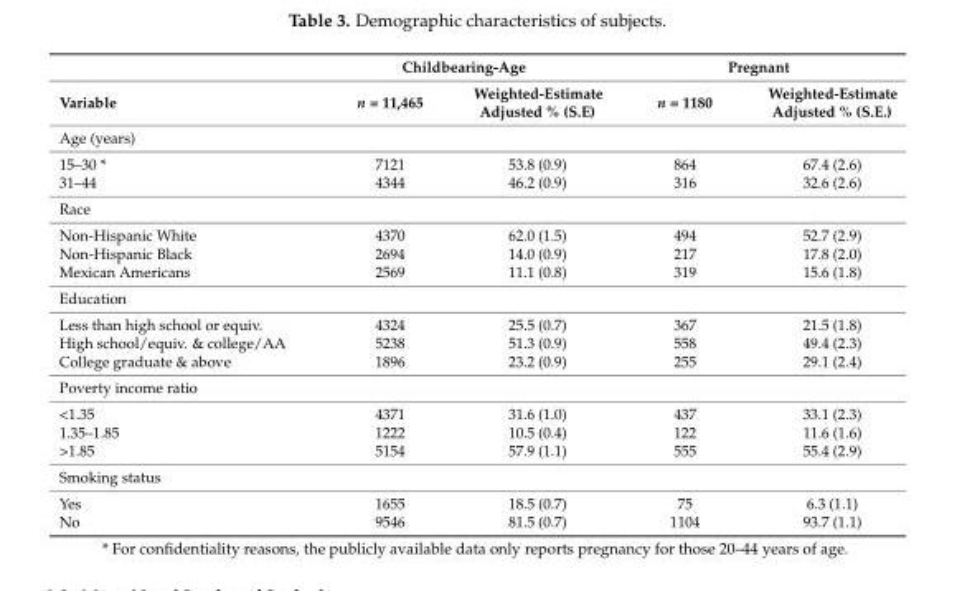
<table><thead><tr><td rowspan="2">Variable</td><td colspan="2">Childbearing-Age</td><td colspan="2">Pregnant</td></tr><tr><td>n = 11,465</td><td>Weighted-Estimate Adjusted % (S.E)</td><td>n = 1180</td><td>Weighted-Estimate Adjusted % (S.E.)</td></tr></thead><tbody><tr><td colspan="5">Age (years)</td></tr><tr><td>15–30 *</td><td>7121</td><td>53.8 (0.9)</td><td>864</td><td>67.4 (2.6)</td></tr><tr><td>31–44</td><td>4344</td><td>46.2 (0.9)</td><td>316</td><td>32.6 (2.6)</td></tr><tr><td colspan="5">Race</td></tr><tr><td>Non-Hispanic White</td><td>4370</td><td>62.0 (1.5)</td><td>494</td><td>52.7 (2.9)</td></tr><tr><td>Non-Hispanic Black</td><td>2694</td><td>14.0 (0.9)</td><td>217</td><td>17.8 (2.0)</td></tr><tr><td>Mexican Americans</td><td>2569</td><td>11.1 (0.8)</td><td>319</td><td>15.6 (1.8)</td></tr><tr><td colspan="5">Education</td></tr><tr><td>Less than high school or equiv.</td><td>4324</td><td>25.5 (0.7)</td><td>367</td><td>21.5 (1.8)</td></tr><tr><td>High school/equiv. &amp; college/AA</td><td>5238</td><td>51.3 (0.9)</td><td>558</td><td>49.4 (2.3)</td></tr><tr><td>College graduate &amp; above</td><td>1896</td><td>23.2 (0.9)</td><td>255</td><td>29.1 (2.4)</td></tr><tr><td colspan="5">Poverty income ratio</td></tr><tr><td>&lt;1.35</td><td>4371</td><td>31.6 (1.0)</td><td>437</td><td>33.1 (2.3)</td></tr><tr><td>1.35–1.85</td><td>1222</td><td>10.5 (0.4)</td><td>122</td><td>11.6 (1.6)</td></tr><tr><td>&gt;1.85</td><td>5154</td><td>57.9 (1.1)</td><td>555</td><td>55.4 (2.9)</td></tr><tr><td colspan="5">Smoking status</td></tr><tr><td>Yes</td><td>1655</td><td>18.5 (0.7)</td><td>75</td><td>6.3 (1.1)</td></tr><tr><td>No</td><td>9546</td><td>81.5 (0.7)</td><td>1104</td><td>93.7 (1.1)</td></tr></tbody></table>